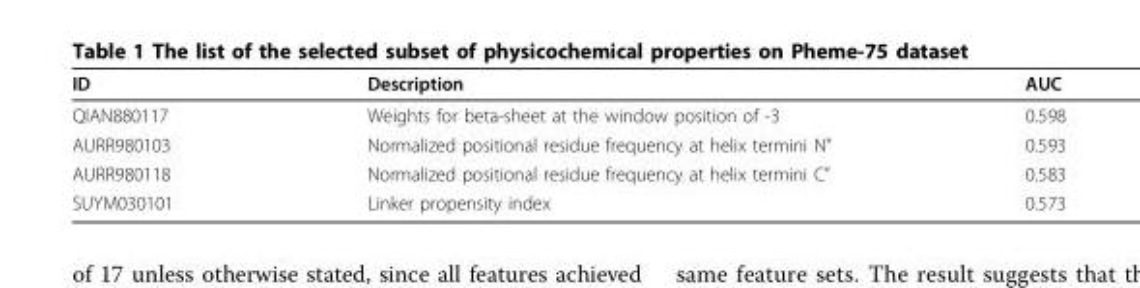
<table><thead><tr><td>ID</td><td>Description</td><td>AUC</td></tr></thead><tbody><tr><td>QIAN880117</td><td>Weights for beta-sheet at the window position of -3</td><td>0.598</td></tr><tr><td>AURR980103</td><td>Normalized positional residue frequency at helix termini N”</td><td>0.593</td></tr><tr><td>AURR980118</td><td>Normalized positional residue frequency at helix termini C”</td><td>0.583</td></tr><tr><td>SUYM030101</td><td>Linker propensity index</td><td>0.573</td></tr></tbody></table>